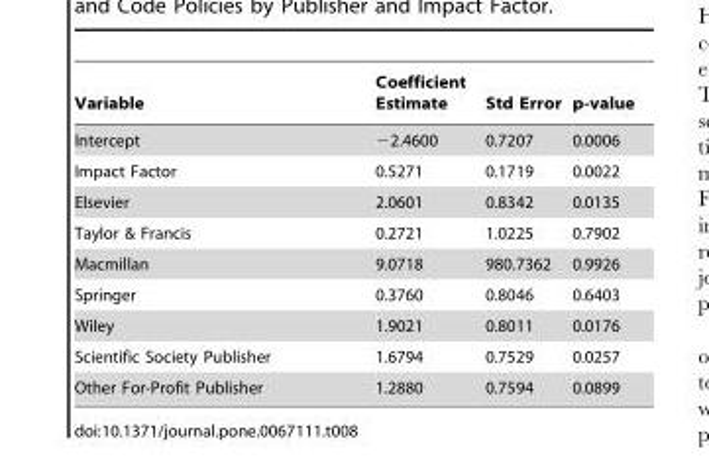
<table><thead><tr><td>Variable</td><td>Coefficient Estimate</td><td>Std Error</td><td>p-value</td></tr></thead><tbody><tr><td>Intercept</td><td>−2.4600</td><td>0.7207</td><td>0.0006</td></tr><tr><td>Impact Factor</td><td>0.5271</td><td>0.1719</td><td>0.0022</td></tr><tr><td>Elsevier</td><td>2.0601</td><td>0.8342</td><td>0.0135</td></tr><tr><td>Taylor &amp; Francis</td><td>0.2721</td><td>1.0225</td><td>0.7902</td></tr><tr><td>Macmillan</td><td>9.0718</td><td>980.7362</td><td>0.9926</td></tr><tr><td>Springer</td><td>0.3760</td><td>0.8046</td><td>0.6403</td></tr><tr><td>Wiley</td><td>1.9021</td><td>0.8011</td><td>0.0176</td></tr><tr><td>Scientific Society Publisher</td><td>1.6794</td><td>0.7529</td><td>0.0257</td></tr><tr><td>Other For-Profit Publisher</td><td>1.2880</td><td>0.7594</td><td>0.0899</td></tr></tbody></table>